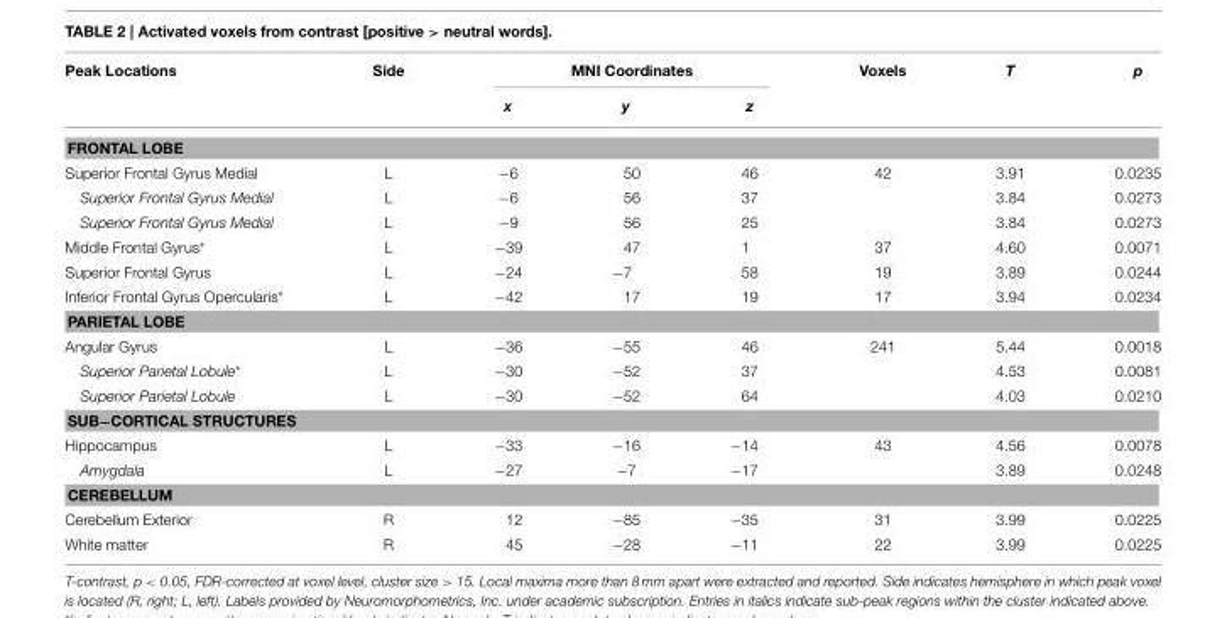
<table><thead><tr><td rowspan="2">Peak Locations</td><td rowspan="2">Side</td><td colspan="3">MNI Coordinates</td><td rowspan="2">Voxels</td><td rowspan="2">T</td><td rowspan="2">p</td></tr><tr><td>x</td><td>y</td><td>z</td></tr></thead><tbody><tr><td colspan="8">FRONTAL LOBE</td></tr><tr><td>Superior Frontal Gyrus Medial</td><td>L</td><td>−6</td><td>50</td><td>46</td><td>42</td><td>3.91</td><td>0.0235</td></tr><tr><td>Superior Frontal Gyrus Medial</td><td>L</td><td>−6</td><td>56</td><td>37</td><td></td><td>3.84</td><td>0.0273</td></tr><tr><td>Superior Frontal Gyrus Medial</td><td>L</td><td>−9</td><td>56</td><td>25</td><td></td><td>3.84</td><td>0.0273</td></tr><tr><td>Middle Frontal Gyrus*</td><td>L</td><td>−39</td><td>47</td><td>1</td><td>37</td><td>4.60</td><td>0.0071</td></tr><tr><td>Superior Frontal Gyrus</td><td>L</td><td>−24</td><td>−7</td><td>58</td><td>19</td><td>3.89</td><td>0.0244</td></tr><tr><td>Inferior Frontal Gyrus Opercularis*</td><td>L</td><td>−42</td><td>17</td><td>19</td><td>17</td><td>3.94</td><td>0.0234</td></tr><tr><td colspan="8">PARIETAL LOBE</td></tr><tr><td>Angular Gyrus</td><td>L</td><td>−36</td><td>−55</td><td>46</td><td>241</td><td>5.44</td><td>0.0018</td></tr><tr><td>Superior Parietal Lobule*</td><td>L</td><td>−30</td><td>−52</td><td>37</td><td></td><td>4.53</td><td>0.0081</td></tr><tr><td>Superior Parietal Lobule</td><td>L</td><td>−30</td><td>−52</td><td>64</td><td></td><td>4.03</td><td>0.0210</td></tr><tr><td colspan="8">SUB−CORTICAL STRUCTURES</td></tr><tr><td>Hippocampus</td><td>L</td><td>−33</td><td>−16</td><td>−14</td><td>43</td><td>4.56</td><td>0.0078</td></tr><tr><td>Amygdala</td><td>L</td><td>−27</td><td>−7</td><td>−17</td><td></td><td>3.89</td><td>0.0248</td></tr><tr><td colspan="8">CEREBELLUM</td></tr><tr><td>Cerebellum Exterior</td><td>R</td><td>12</td><td>−85</td><td>−35</td><td>31</td><td>3.99</td><td>0.0225</td></tr><tr><td>White matter</td><td>R</td><td>45</td><td>−28</td><td>−11</td><td>22</td><td>3.99</td><td>0.0225</td></tr></tbody></table>